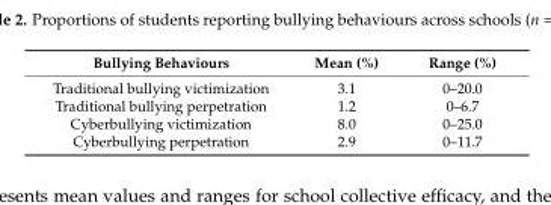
<table><thead><tr><td>Bullying Behaviours</td><td>Mean (%)</td><td>Range (%)</td></tr></thead><tbody><tr><td>Traditional bullying victimization</td><td>3.1</td><td>0–20.0</td></tr><tr><td>Traditional bullying perpetration</td><td>1.2</td><td>0–6.7</td></tr><tr><td>Cyberbullying victimization</td><td>8.0</td><td>0–25.0</td></tr><tr><td>Cyberbullying perpetration</td><td>2.9</td><td>0–11.7</td></tr></tbody></table>